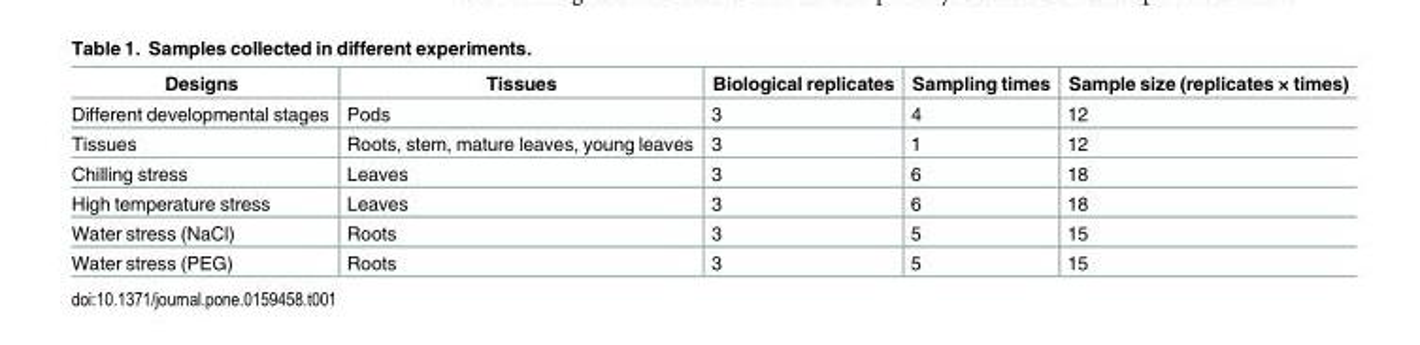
<table><thead><tr><td>Designs</td><td>Tissues</td><td>Biological replicates</td><td>Sampling times</td><td>Sample size (replicates × times)</td></tr></thead><tbody><tr><td>Different developmental stages</td><td>Pods</td><td>3</td><td>4</td><td>12</td></tr><tr><td>Tissues</td><td>Roots, stem, mature leaves, young leaves</td><td>3</td><td>1</td><td>12</td></tr><tr><td>Chilling stress</td><td>Leaves</td><td>3</td><td>6</td><td>18</td></tr><tr><td>High temperature stress</td><td>Leaves</td><td>3</td><td>6</td><td>18</td></tr><tr><td>Water stress (NaCl)</td><td>Roots</td><td>3</td><td>5</td><td>15</td></tr><tr><td>Water stress (PEG)</td><td>Roots</td><td>3</td><td>5</td><td>15</td></tr></tbody></table>